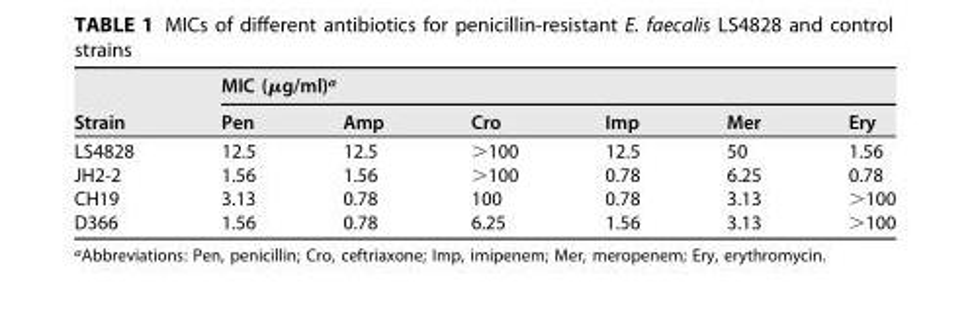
<table><thead><tr><td rowspan="2">Strain</td><td colspan="6">MIC (μg/ml)<sup>a</sup></td></tr><tr><td>Pen</td><td>Amp</td><td>Cro</td><td>Imp</td><td>Mer</td><td>Ery</td></tr></thead><tbody><tr><td>LS4828</td><td>12.5</td><td>12.5</td><td>&gt;100</td><td>12.5</td><td>50</td><td>1.56</td></tr><tr><td>JH2-2</td><td>1.56</td><td>1.56</td><td>&gt;100</td><td>0.78</td><td>6.25</td><td>0.78</td></tr><tr><td>CH19</td><td>3.13</td><td>0.78</td><td>100</td><td>0.78</td><td>3.13</td><td>&gt;100</td></tr><tr><td>D366</td><td>1.56</td><td>0.78</td><td>6.25</td><td>1.56</td><td>3.13</td><td>&gt;100</td></tr></tbody></table>